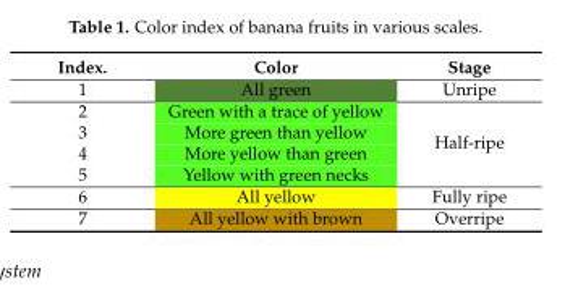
<table><thead><tr><td>Index.</td><td>Color</td><td>Stage</td></tr></thead><tbody><tr><td>1</td><td>All green</td><td>Unripe</td></tr><tr><td>2</td><td>Green with a trace of yellow</td><td rowspan="4">Half-ripe</td></tr><tr><td>3</td><td>More green than yellow</td></tr><tr><td>4</td><td>More yellow than green</td></tr><tr><td>5</td><td>Yellow with green necks</td></tr><tr><td>6</td><td>All yellow</td><td>Fully ripe</td></tr><tr><td>7</td><td>All yellow with brown</td><td>Overripe</td></tr></tbody></table>